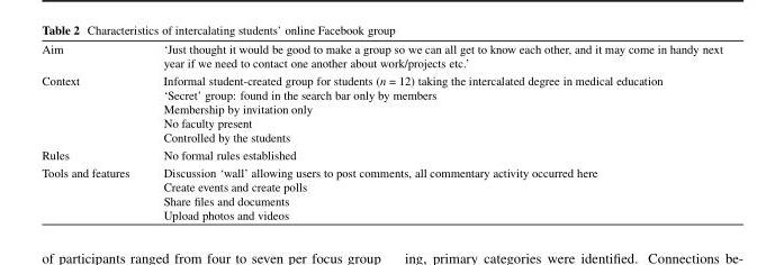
<table><tbody><tr><td>Aim</td><td>‘Just thought it would be good to make a group so we can all get to know each other, and it may come in handy next year if we need to contact one another about work/projects etc.’</td></tr><tr><td>Context</td><td>Informal student-created group for students (n = 12) taking the intercalated degree in medical education ‘Secret’ group: found in the search bar only by members Membership by invitation only No faculty present Controlled by the students</td></tr><tr><td>Rules</td><td>No formal rules established</td></tr><tr><td>Tools and features</td><td>Discussion ‘wall’ allowing users to post comments, all commentary activity occurred here Create events and create polls Share files and documents Upload photos and videos</td></tr></tbody></table>